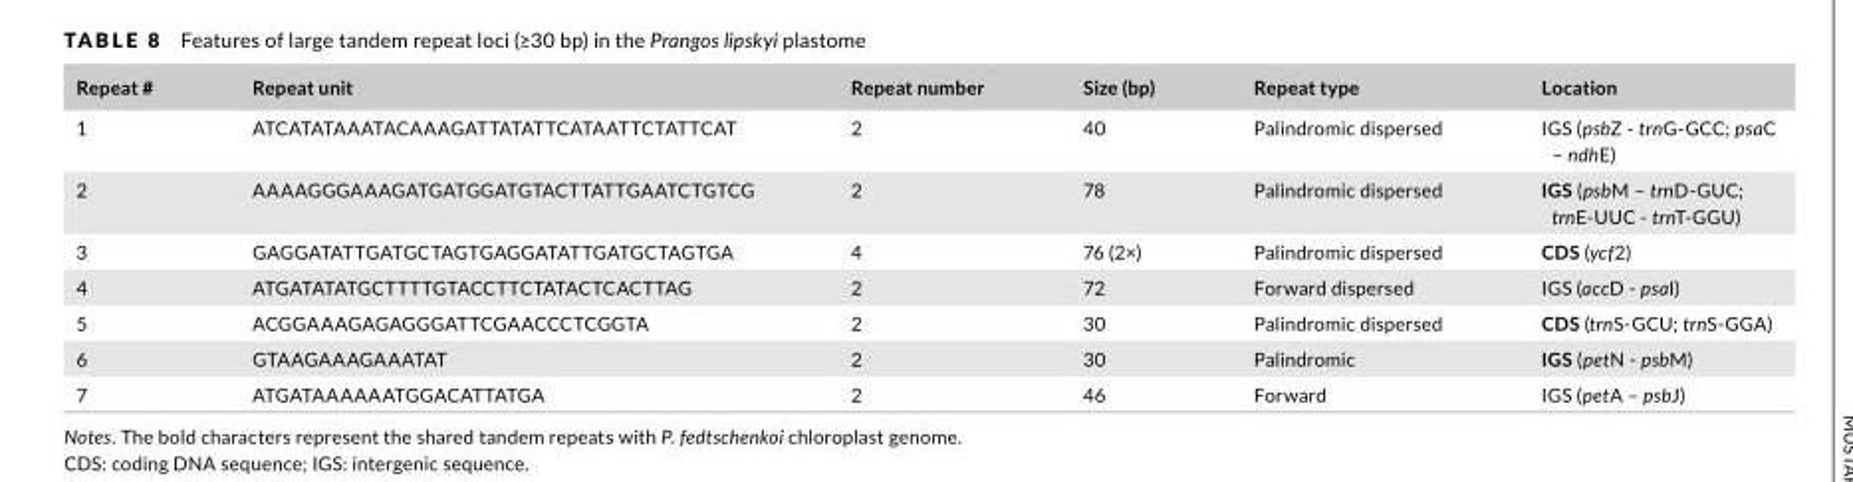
<table><thead><tr><td>Repeat #</td><td>Repeat unit</td><td>Repeat number</td><td>Size (bp)</td><td>Repeat type</td><td>Location</td></tr></thead><tbody><tr><td>1</td><td>ATCATATAAATACAAAGATTATATTCATAATTCTATTCAT</td><td>2</td><td>40</td><td>Palindromic dispersed</td><td>IGS (psbZ ‐ trnG‐GCC; psaC – ndhE)</td></tr><tr><td>2</td><td>AAAAGGGAAAGATGATGGATGTACTTATTGAATCTGTCG</td><td>2</td><td>78</td><td>Palindromic dispersed</td><td>IGS (psbM – trnD‐GUC; trnE‐UUC ‐ trnT‐GGU)</td></tr><tr><td>3</td><td>GAGGATATTGATGCTAGTGAGGATATTGATGCTAGTGA</td><td>4</td><td>76 (2×)</td><td>Palindromic dispersed</td><td>CDS (ycf2)</td></tr><tr><td>4</td><td>ATGATATATGCTTTTGTACCTTCTATACTCACTTAG</td><td>2</td><td>72</td><td>Forward dispersed</td><td>IGS (accD ‐ psaI)</td></tr><tr><td>5</td><td>ACGGAAAGAGAGGGATTCGAACCCTCGGTA</td><td>2</td><td>30</td><td>Palindromic dispersed</td><td>CDS (trnS‐GCU; trnS‐GGA)</td></tr><tr><td>6</td><td>GTAAGAAAGAAATAT</td><td>2</td><td>30</td><td>Palindromic</td><td>IGS (petN ‐ psbM)</td></tr><tr><td>7</td><td>ATGATAAAAAATGGACATTATGA</td><td>2</td><td>46</td><td>Forward</td><td>IGS (petA – psbJ)</td></tr></tbody></table>